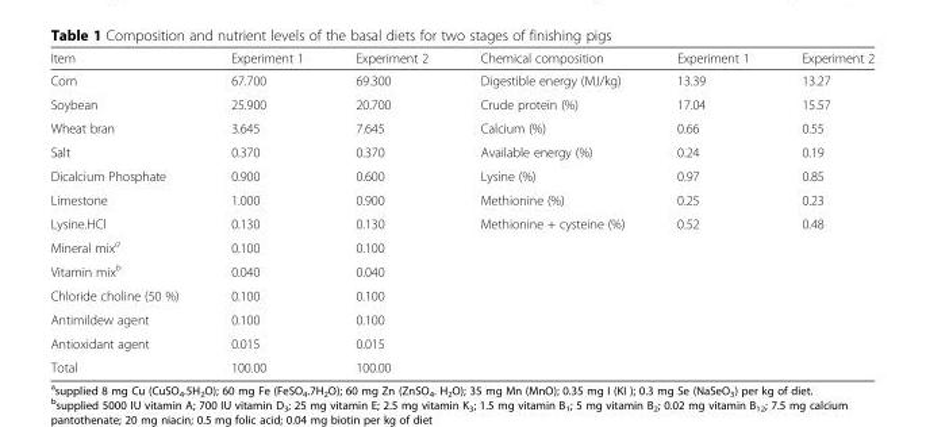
<table><thead><tr><td>Item</td><td>Experiment 1</td><td>Experiment 2</td><td>Chemical composition</td><td>Experiment 1</td><td>Experiment 2</td></tr></thead><tbody><tr><td>Corn</td><td>67.700</td><td>69.300</td><td>Digestible energy (MJ/kg)</td><td>13.39</td><td>13.27</td></tr><tr><td>Soybean</td><td>25.900</td><td>20.700</td><td>Crude protein (%)</td><td>17.04</td><td>15.57</td></tr><tr><td>Wheat bran</td><td>3.645</td><td>7.645</td><td>Calcium (%)</td><td>0.66</td><td>0.55</td></tr><tr><td>Salt</td><td>0.370</td><td>0.370</td><td>Available energy (%)</td><td>0.24</td><td>0.19</td></tr><tr><td>Dicalcium Phosphate</td><td>0.900</td><td>0.600</td><td>Lysine (%)</td><td>0.97</td><td>0.85</td></tr><tr><td>Limestone</td><td>1.000</td><td>0.900</td><td>Methionine (%)</td><td>0.25</td><td>0.23</td></tr><tr><td>Lysine.HCl</td><td>0.130</td><td>0.130</td><td>Methionine + cysteine (%)</td><td>0.52</td><td>0.48</td></tr><tr><td>Mineral mix<sup>a</sup></td><td>0.100</td><td>0.100</td><td></td><td></td><td></td></tr><tr><td>Vitamin mix<sup>b</sup></td><td>0.040</td><td>0.040</td><td></td><td></td><td></td></tr><tr><td>Chloride choline (50 %)</td><td>0.100</td><td>0.100</td><td></td><td></td><td></td></tr><tr><td>Antimildew agent</td><td>0.100</td><td>0.100</td><td></td><td></td><td></td></tr><tr><td>Antioxidant agent</td><td>0.015</td><td>0.015</td><td></td><td></td><td></td></tr><tr><td>Total</td><td>100.00</td><td>100.00</td><td></td><td></td><td></td></tr></tbody></table>